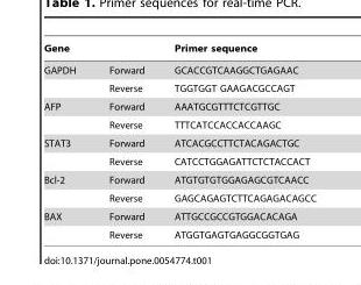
<table><thead><tr><td>Gene</td><td></td><td>Primer sequence</td></tr></thead><tbody><tr><td rowspan="2">GAPDH</td><td>Forward</td><td>GCACCGTCAAGGCTGAGAAC</td></tr><tr><td>Reverse</td><td>TGGTGGT GAAGACGCCAGT</td></tr><tr><td rowspan="2">AFP</td><td>Forward</td><td>AAATGCGTTTCTCGTTGC</td></tr><tr><td>Reverse</td><td>TTTCATCCACCACCAAGC</td></tr><tr><td rowspan="2">STAT3</td><td>Forward</td><td>ATCACGCCTTCTACAGACTGC</td></tr><tr><td>Reverse</td><td>CATCCTGGAGATTCTCTACCACT</td></tr><tr><td rowspan="2">Bcl-2</td><td>Forward</td><td>ATGTGTGTGGAGAGCGTCAACC</td></tr><tr><td>Reverse</td><td>GAGCAGAGTCTTCAGAGACAGCC</td></tr><tr><td rowspan="2">BAX</td><td>Forward</td><td>ATTGCCGCCGTGGACACAGA</td></tr><tr><td>Reverse</td><td>ATGGTGAGTGAGGCGGTGAG</td></tr></tbody></table>